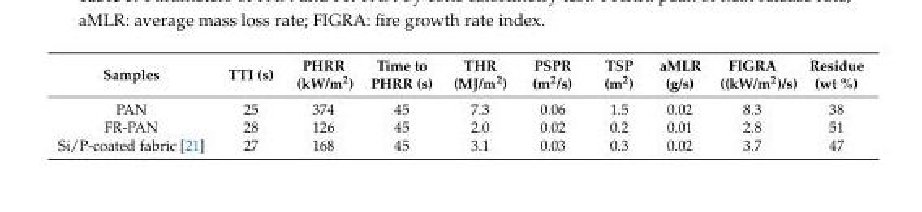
<table><thead><tr><td>Samples</td><td>TTI (s)</td><td>PHRR (kW/m2)</td><td>Time to PHRR (s)</td><td>THR (MJ/m2)</td><td>PSPR (m2/s)</td><td>TSP (m2)</td><td>aMLR (g/s)</td><td>FIGRA ((kW/m2)/s)</td><td>Residue (wt %)</td></tr></thead><tbody><tr><td>PAN</td><td>25</td><td>374</td><td>45</td><td>7.3</td><td>0.06</td><td>1.5</td><td>0.02</td><td>8.3</td><td>38</td></tr><tr><td>FR-PAN</td><td>28</td><td>126</td><td>45</td><td>2.0</td><td>0.02</td><td>0.2</td><td>0.01</td><td>2.8</td><td>51</td></tr><tr><td>Si/P-coated fabric [21]</td><td>27</td><td>168</td><td>45</td><td>3.1</td><td>0.03</td><td>0.3</td><td>0.02</td><td>3.7</td><td>47</td></tr></tbody></table>